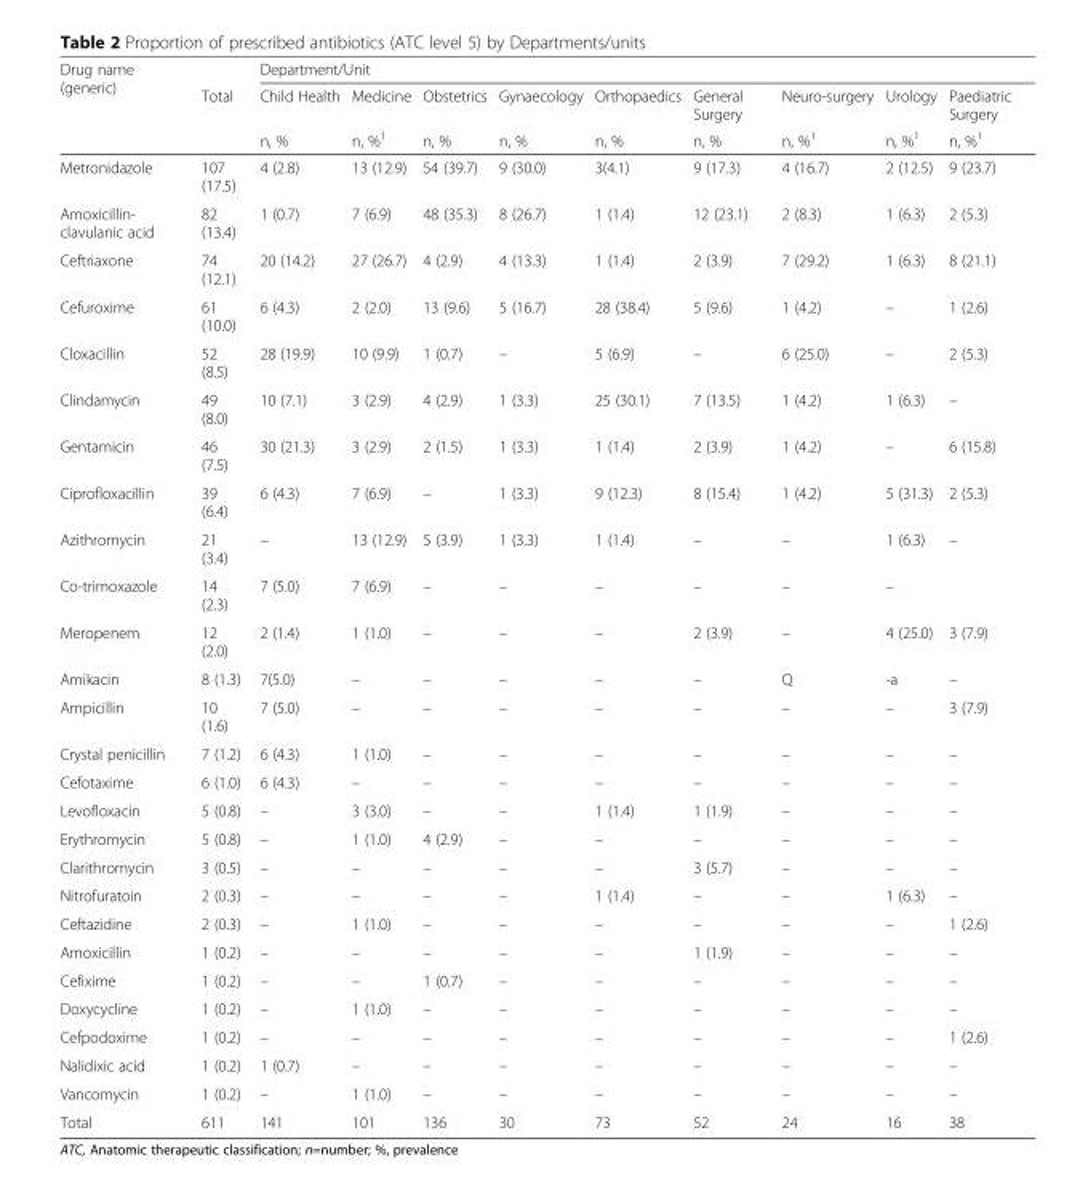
<table><thead><tr><td rowspan="3">Drug name (generic)</td><td rowspan="3">Total</td><td colspan="9">Department/Unit</td></tr><tr><td rowspan="2">Child Health n, %</td><td rowspan="2">Medicine n, %<sup>1</sup></td><td rowspan="2">Obstetrics n, %</td><td rowspan="2">Gynaecology n, %</td><td rowspan="2">Orthopaedics n, %</td><td rowspan="2">General Surgery n, %</td><td rowspan="2">Neuro-surgery n, %<sup>1</sup></td><td rowspan="2">Urology n, %<sup>1</sup></td><td rowspan="2">Paediatric Surgery n, %<sup>1</sup></td></tr><tr></tr></thead><tbody><tr><td>Metronidazole</td><td>107 (17.5)</td><td>4 (2.8)</td><td>13 (12.9)</td><td>54 (39.7)</td><td>9 (30.0)</td><td>3(4.1)</td><td>9 (17.3)</td><td>4 (16.7)</td><td>2 (12.5)</td><td>9 (23.7)</td></tr><tr><td>Amoxicillin- clavulanic acid</td><td>82 (13.4)</td><td>1 (0.7)</td><td>7 (6.9)</td><td>48 (35.3)</td><td>8 (26.7)</td><td>1 (1.4)</td><td>12 (23.1)</td><td>2 (8.3)</td><td>1 (6.3)</td><td>2 (5.3)</td></tr><tr><td>Ceftriaxone</td><td>74 (12.1)</td><td>20 (14.2)</td><td>27 (26.7)</td><td>4 (2.9)</td><td>4 (13.3)</td><td>1 (1.4)</td><td>2 (3.9)</td><td>7 (29.2)</td><td>1 (6.3)</td><td>8 (21.1)</td></tr><tr><td>Cefuroxime</td><td>61 (10.0)</td><td>6 (4.3)</td><td>2 (2.0)</td><td>13 (9.6)</td><td>5 (16.7)</td><td>28 (38.4)</td><td>5 (9.6)</td><td>1 (4.2)</td><td>–</td><td>1 (2.6)</td></tr><tr><td>Cloxacillin</td><td>52 (8.5)</td><td>28 (19.9)</td><td>10 (9.9)</td><td>1 (0.7)</td><td>–</td><td>5 (6.9)</td><td>–</td><td>6 (25.0)</td><td>–</td><td>2 (5.3)</td></tr><tr><td>Clindamycin</td><td>49 (8.0)</td><td>10 (7.1)</td><td>3 (2.9)</td><td>4 (2.9)</td><td>1 (3.3)</td><td>25 (30.1)</td><td>7 (13.5)</td><td>1 (4.2)</td><td>1 (6.3)</td><td>–</td></tr><tr><td>Gentamicin</td><td>46 (7.5)</td><td>30 (21.3)</td><td>3 (2.9)</td><td>2 (1.5)</td><td>1 (3.3)</td><td>1 (1.4)</td><td>2 (3.9)</td><td>1 (4.2)</td><td>–</td><td>6 (15.8)</td></tr><tr><td>Ciprofloxacillin</td><td>39 (6.4)</td><td>6 (4.3)</td><td>7 (6.9)</td><td>–</td><td>1 (3.3)</td><td>9 (12.3)</td><td>8 (15.4)</td><td>1 (4.2)</td><td>5 (31.3)</td><td>2 (5.3)</td></tr><tr><td>Azithromycin</td><td>21 (3.4)</td><td>–</td><td>13 (12.9)</td><td>5 (3.9)</td><td>1 (3.3)</td><td>1 (1.4)</td><td>–</td><td>–</td><td>1 (6.3)</td><td>–</td></tr><tr><td>Co-trimoxazole</td><td>14 (2.3)</td><td>7 (5.0)</td><td>7 (6.9)</td><td>–</td><td>–</td><td>–</td><td>–</td><td>–</td><td>–</td><td></td></tr><tr><td>Meropenem</td><td>12 (2.0)</td><td>2 (1.4)</td><td>1 (1.0)</td><td>–</td><td>–</td><td>–</td><td>2 (3.9)</td><td>–</td><td>4 (25.0)</td><td>3 (7.9)</td></tr><tr><td>Amikacin</td><td>8 (1.3)</td><td>7(5.0)</td><td>–</td><td>–</td><td>–</td><td>–</td><td>–</td><td>Q</td><td>-a</td><td>–</td></tr><tr><td>Ampicillin</td><td>10 (1.6)</td><td>7 (5.0)</td><td>–</td><td>–</td><td>–</td><td>–</td><td>–</td><td>–</td><td>–</td><td>3 (7.9)</td></tr><tr><td>Crystal penicillin</td><td>7 (1.2)</td><td>6 (4.3)</td><td>1 (1.0)</td><td>–</td><td>–</td><td>–</td><td>–</td><td>–</td><td>–</td><td>–</td></tr><tr><td>Cefotaxime</td><td>6 (1.0)</td><td>6 (4.3)</td><td>–</td><td>–</td><td>–</td><td>–</td><td>–</td><td>–</td><td>–</td><td>–</td></tr><tr><td>Levofloxacin</td><td>5 (0.8)</td><td>–</td><td>3 (3.0)</td><td>–</td><td>–</td><td>1 (1.4)</td><td>1 (1.9)</td><td>–</td><td>–</td><td>–</td></tr><tr><td>Erythromycin</td><td>5 (0.8)</td><td>–</td><td>1 (1.0)</td><td>4 (2.9)</td><td>–</td><td>–</td><td>–</td><td>–</td><td>–</td><td>–</td></tr><tr><td>Clarithromycin</td><td>3 (0.5)</td><td>–</td><td>–</td><td>–</td><td>–</td><td>–</td><td>3 (5.7)</td><td>–</td><td>–</td><td>–</td></tr><tr><td>Nitrofuratoin</td><td>2 (0.3)</td><td>–</td><td>–</td><td>–</td><td>–</td><td>1 (1.4)</td><td>–</td><td>–</td><td>1 (6.3)</td><td>–</td></tr><tr><td>Ceftazidine</td><td>2 (0.3)</td><td>–</td><td>1 (1.0)</td><td>–</td><td>–</td><td>–</td><td>–</td><td>–</td><td>–</td><td>1 (2.6)</td></tr><tr><td>Amoxicillin</td><td>1 (0.2)</td><td>–</td><td>–</td><td>–</td><td>–</td><td>–</td><td>1 (1.9)</td><td>–</td><td>–</td><td>–</td></tr><tr><td>Cefixime</td><td>1 (0.2)</td><td>–</td><td>–</td><td>1 (0.7)</td><td>–</td><td>–</td><td>–</td><td>–</td><td>–</td><td>–</td></tr><tr><td>Doxycycline</td><td>1 (0.2)</td><td>–</td><td>1 (1.0)</td><td>–</td><td>–</td><td>–</td><td>–</td><td>–</td><td>–</td><td>–</td></tr><tr><td>Cefpodoxime</td><td>1 (0.2)</td><td>–</td><td>–</td><td>–</td><td>–</td><td>–</td><td>–</td><td>–</td><td>–</td><td>1 (2.6)</td></tr><tr><td>Nalidixic acid</td><td>1 (0.2)</td><td>1 (0.7)</td><td>–</td><td>–</td><td>–</td><td>–</td><td>–</td><td>–</td><td>–</td><td>–</td></tr><tr><td>Vancomycin</td><td>1 (0.2)</td><td>–</td><td>1 (1.0)</td><td>–</td><td>–</td><td>–</td><td>–</td><td>–</td><td>–</td><td>–</td></tr><tr><td>Total</td><td>611</td><td>141</td><td>101</td><td>136</td><td>30</td><td>73</td><td>52</td><td>24</td><td>16</td><td>38</td></tr></tbody></table>